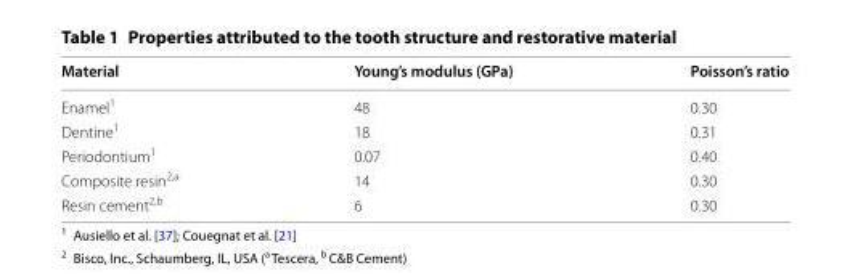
<table><thead><tr><td>Material</td><td>Young’s modulus (GPa)</td><td>Poisson’s ratio</td></tr></thead><tbody><tr><td>Enamel<sup>1</sup></td><td>48</td><td>0.30</td></tr><tr><td>Dentine<sup>1</sup></td><td>18</td><td>0.31</td></tr><tr><td>Periodontium<sup>1</sup></td><td>0.07</td><td>0.40</td></tr><tr><td>Composite resin<sup>2,a</sup></td><td>14</td><td>0.30</td></tr><tr><td>Resin cement<sup>2,b</sup></td><td>6</td><td>0.30</td></tr></tbody></table>